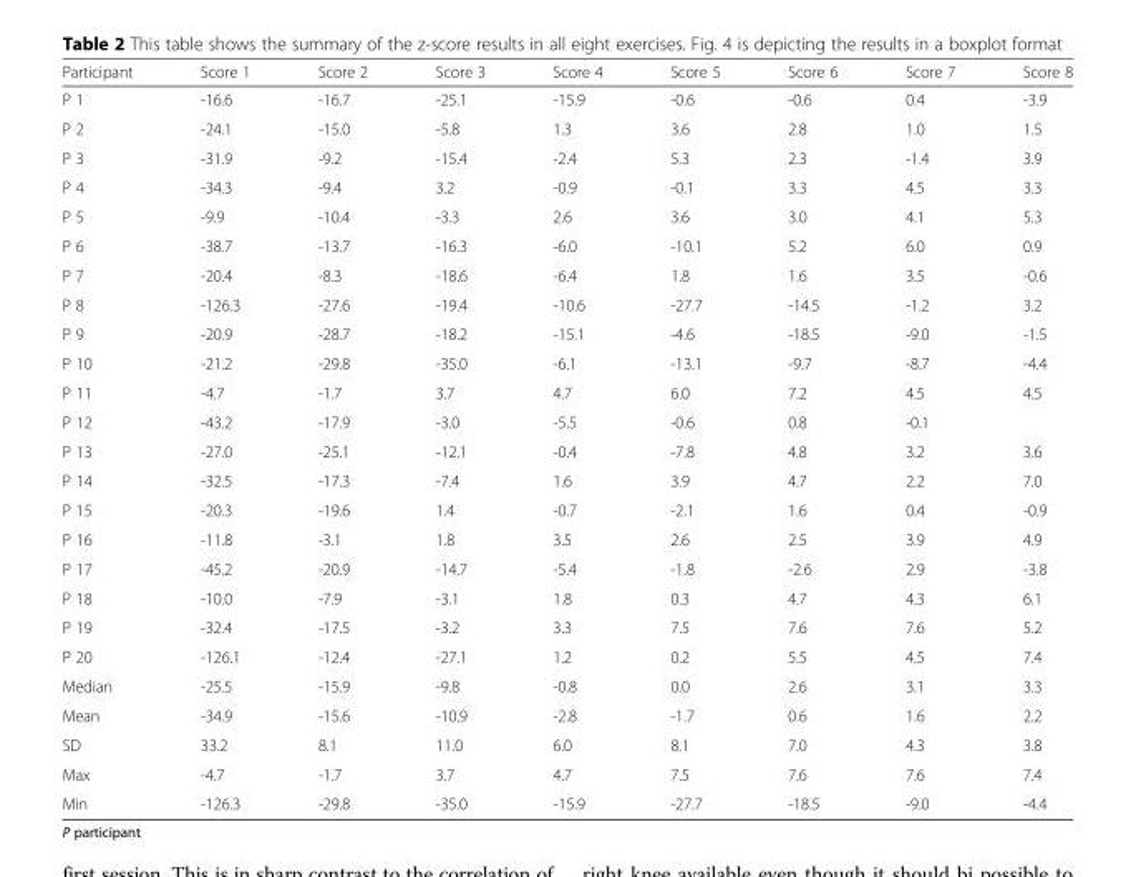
<table><thead><tr><td>Participant</td><td>Score 1</td><td>Score 2</td><td>Score 3</td><td>Score 4</td><td>Score 5</td><td>Score 6</td><td>Score 7</td><td>Score 8</td></tr></thead><tbody><tr><td>P 1</td><td>-16.6</td><td>-16.7</td><td>-25.1</td><td>-15.9</td><td>-0.6</td><td>-0.6</td><td>0.4</td><td>-3.9</td></tr><tr><td>P 2</td><td>-24.1</td><td>-15.0</td><td>-5.8</td><td>1.3</td><td>3.6</td><td>2.8</td><td>1.0</td><td>1.5</td></tr><tr><td>P 3</td><td>-31.9</td><td>-9.2</td><td>-15.4</td><td>-2.4</td><td>5.3</td><td>2.3</td><td>-1.4</td><td>3.9</td></tr><tr><td>P 4</td><td>-34.3</td><td>-9.4</td><td>3.2</td><td>-0.9</td><td>-0.1</td><td>3.3</td><td>4.5</td><td>3.3</td></tr><tr><td>P 5</td><td>-9.9</td><td>-10.4</td><td>-3.3</td><td>2.6</td><td>3.6</td><td>3.0</td><td>4.1</td><td>5.3</td></tr><tr><td>P 6</td><td>-38.7</td><td>-13.7</td><td>-16.3</td><td>-6.0</td><td>-10.1</td><td>5.2</td><td>6.0</td><td>0.9</td></tr><tr><td>P 7</td><td>-20.4</td><td>-8.3</td><td>-18.6</td><td>-6.4</td><td>1.8</td><td>1.6</td><td>3.5</td><td>-0.6</td></tr><tr><td>P 8</td><td>-126.3</td><td>-27.6</td><td>-19.4</td><td>-10.6</td><td>-27.7</td><td>-14.5</td><td>-1.2</td><td>3.2</td></tr><tr><td>P 9</td><td>-20.9</td><td>-28.7</td><td>-18.2</td><td>-15.1</td><td>-4.6</td><td>-18.5</td><td>-9.0</td><td>-1.5</td></tr><tr><td>P 10</td><td>-21.2</td><td>-29.8</td><td>-35.0</td><td>-6.1</td><td>-13.1</td><td>-9.7</td><td>-8.7</td><td>-4.4</td></tr><tr><td>P 11</td><td>-4.7</td><td>-1.7</td><td>3.7</td><td>4.7</td><td>6.0</td><td>7.2</td><td>4.5</td><td>4.5</td></tr><tr><td>P 12</td><td>-43.2</td><td>-17.9</td><td>-3.0</td><td>-5.5</td><td>-0.6</td><td>0.8</td><td>-0.1</td><td></td></tr><tr><td>P 13</td><td>-27.0</td><td>-25.1</td><td>-12.1</td><td>-0.4</td><td>-7.8</td><td>4.8</td><td>3.2</td><td>3.6</td></tr><tr><td>P 14</td><td>-32.5</td><td>-17.3</td><td>-7.4</td><td>1.6</td><td>3.9</td><td>4.7</td><td>2.2</td><td>7.0</td></tr><tr><td>P 15</td><td>-20.3</td><td>-19.6</td><td>1.4</td><td>-0.7</td><td>-2.1</td><td>1.6</td><td>0.4</td><td>-0.9</td></tr><tr><td>P 16</td><td>-11.8</td><td>-3.1</td><td>1.8</td><td>3.5</td><td>2.6</td><td>2.5</td><td>3.9</td><td>4.9</td></tr><tr><td>P 17</td><td>-45.2</td><td>-20.9</td><td>-14.7</td><td>-5.4</td><td>-1.8</td><td>-2.6</td><td>2.9</td><td>-3.8</td></tr><tr><td>P 18</td><td>-10.0</td><td>-7.9</td><td>-3.1</td><td>1.8</td><td>0.3</td><td>4.7</td><td>4.3</td><td>6.1</td></tr><tr><td>P 19</td><td>-32.4</td><td>-17.5</td><td>-3.2</td><td>3.3</td><td>7.5</td><td>7.6</td><td>7.6</td><td>5.2</td></tr><tr><td>P 20</td><td>-126.1</td><td>-12.4</td><td>-27.1</td><td>1.2</td><td>0.2</td><td>5.5</td><td>4.5</td><td>7.4</td></tr><tr><td>Median</td><td>-25.5</td><td>-15.9</td><td>-9.8</td><td>-0.8</td><td>0.0</td><td>2.6</td><td>3.1</td><td>3.3</td></tr><tr><td>Mean</td><td>-34.9</td><td>-15.6</td><td>-10.9</td><td>-2.8</td><td>-1.7</td><td>0.6</td><td>1.6</td><td>2.2</td></tr><tr><td>SD</td><td>33.2</td><td>8.1</td><td>11.0</td><td>6.0</td><td>8.1</td><td>7.0</td><td>4.3</td><td>3.8</td></tr><tr><td>Max</td><td>-4.7</td><td>-1.7</td><td>3.7</td><td>4.7</td><td>7.5</td><td>7.6</td><td>7.6</td><td>7.4</td></tr><tr><td>Min</td><td>-126.3</td><td>-29.8</td><td>-35.0</td><td>-15.9</td><td>-27.7</td><td>-18.5</td><td>-9.0</td><td>-4.4</td></tr></tbody></table>